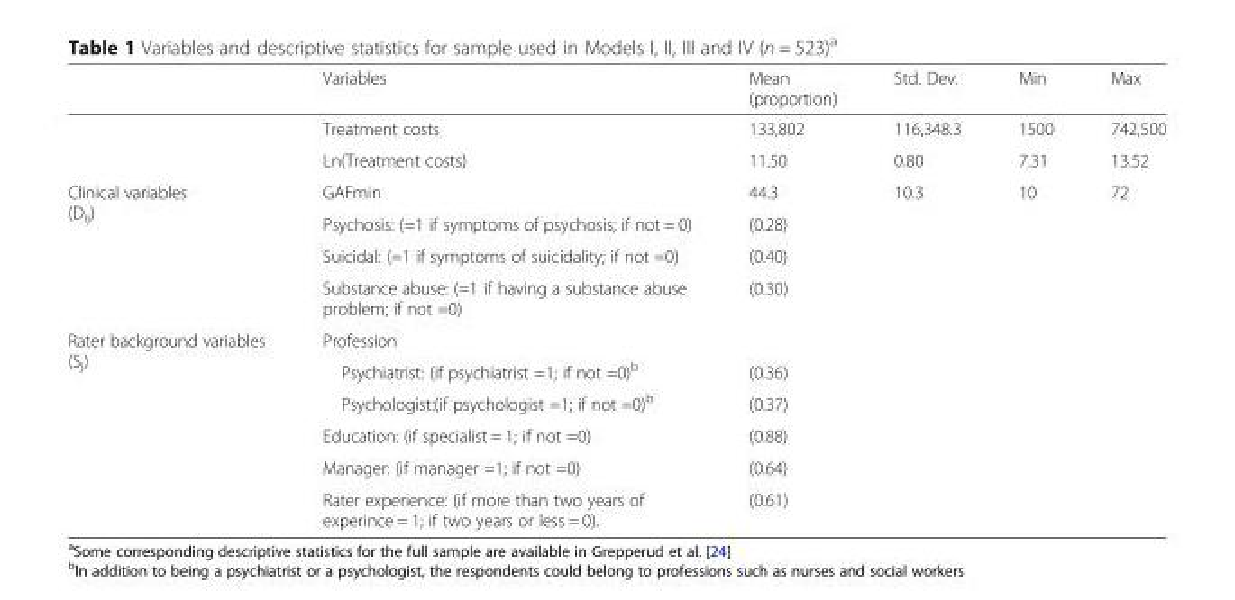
<table><thead><tr><td></td><td>Variables</td><td>Mean (proportion)</td><td>Std. Dev.</td><td>Min</td><td>Max</td></tr></thead><tbody><tr><td></td><td>Treatment costs</td><td>133,802</td><td>116,348.3</td><td>1500</td><td>742,500</td></tr><tr><td></td><td>Ln(Treatment costs)</td><td>11.50</td><td>0.80</td><td>7.31</td><td>13.52</td></tr><tr><td rowspan="4">Clinical variables (D<sub>ij</sub>)</td><td>GAFmin</td><td>44.3</td><td>10.3</td><td>10</td><td>72</td></tr><tr><td>Psychosis: (=1 if symptoms of psychosis; if not = 0)</td><td>(0.28)</td><td></td><td></td><td></td></tr><tr><td>Suicidal: (=1 if symptoms of suicidality; if not =0)</td><td>(0.40)</td><td></td><td></td><td></td></tr><tr><td>Substance abuse: (=1 if having a substance abuse problem; if not =0)</td><td>(0.30)</td><td></td><td></td><td></td></tr><tr><td rowspan="6">Rater background variables (S<sub>j</sub>)</td><td colspan="5">Profession</td></tr><tr><td>Psychiatrist: (if psychiatrist =1; if not =0)<sup>b</sup></td><td>(0.36)</td><td></td><td></td><td></td></tr><tr><td>Psychologist:(if psychologist =1; if not =0)<sup>b</sup></td><td>(0.37)</td><td></td><td></td><td></td></tr><tr><td>Education: (if specialist = 1; if not =0)</td><td>(0.88)</td><td></td><td></td><td></td></tr><tr><td>Manager: (if manager =1; if not =0)</td><td>(0.64)</td><td></td><td></td><td></td></tr><tr><td>Rater experience: (if more than two years of experince = 1; if two years or less = 0).</td><td>(0.61)</td><td></td><td></td><td></td></tr></tbody></table>